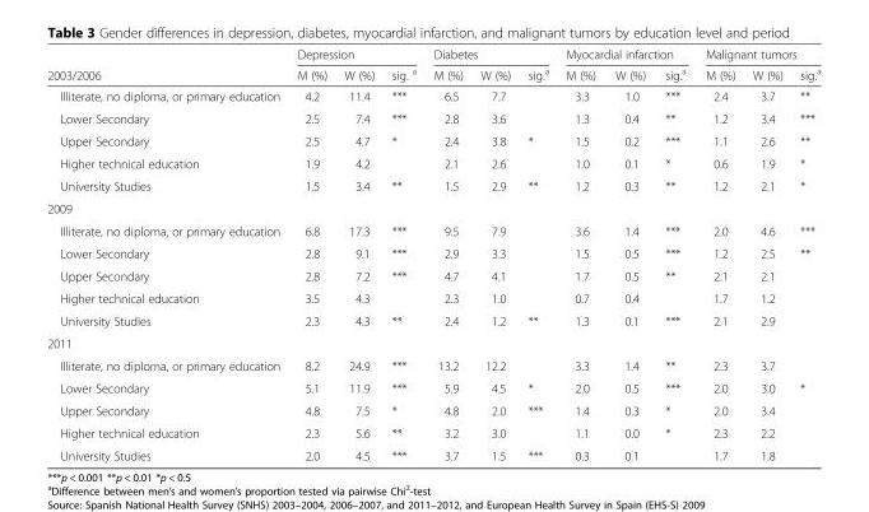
<table><thead><tr><td rowspan="2">2003/2006</td><td colspan="3">Depression</td><td colspan="3">Diabetes</td><td colspan="3">Myocardial infarction</td><td colspan="3">Malignant tumors</td></tr><tr><td>M (%)</td><td>W (%)</td><td>sig. <sup>a</sup></td><td>M (%)</td><td>W (%)</td><td>sig.<sup>a</sup></td><td>M (%)</td><td>W (%)</td><td>sig.<sup>a</sup></td><td>M (%)</td><td>W (%)</td><td>sig.<sup>a</sup></td></tr></thead><tbody><tr><td>Illiterate, no diploma, or primary education</td><td>4.2</td><td>11.4</td><td>***</td><td>6.5</td><td>7.7</td><td></td><td>3.3</td><td>1.0</td><td>***</td><td>2.4</td><td>3.7</td><td>**</td></tr><tr><td>Lower Secondary</td><td>2.5</td><td>7.4</td><td>***</td><td>2.8</td><td>3.6</td><td></td><td>1.3</td><td>0.4</td><td>**</td><td>1.2</td><td>3.4</td><td>***</td></tr><tr><td>Upper Secondary</td><td>2.5</td><td>4.7</td><td>*</td><td>2.4</td><td>3.8</td><td>*</td><td>1.5</td><td>0.2</td><td>***</td><td>1.1</td><td>2.6</td><td>**</td></tr><tr><td>Higher technical education</td><td>1.9</td><td>4.2</td><td></td><td>2.1</td><td>2.6</td><td></td><td>1.0</td><td>0.1</td><td>*</td><td>0.6</td><td>1.9</td><td>*</td></tr><tr><td>University Studies</td><td>1.5</td><td>3.4</td><td>**</td><td>1.5</td><td>2.9</td><td>**</td><td>1.2</td><td>0.3</td><td>**</td><td>1.2</td><td>2.1</td><td>*</td></tr><tr><td colspan="13">2009</td></tr><tr><td>Illiterate, no diploma, or primary education</td><td>6.8</td><td>17.3</td><td>***</td><td>9.5</td><td>7.9</td><td></td><td>3.6</td><td>1.4</td><td>***</td><td>2.0</td><td>4.6</td><td>***</td></tr><tr><td>Lower Secondary</td><td>2.8</td><td>9.1</td><td>***</td><td>2.9</td><td>3.3</td><td></td><td>1.5</td><td>0.5</td><td>***</td><td>1.2</td><td>2.5</td><td>**</td></tr><tr><td>Upper Secondary</td><td>2.8</td><td>7.2</td><td>***</td><td>4.7</td><td>4.1</td><td></td><td>1.7</td><td>0.5</td><td>**</td><td>2.1</td><td>2.1</td><td></td></tr><tr><td>Higher technical education</td><td>3.5</td><td>4.3</td><td></td><td>2.3</td><td>1.0</td><td></td><td>0.7</td><td>0.4</td><td></td><td>1.7</td><td>1.2</td><td></td></tr><tr><td>University Studies</td><td>2.3</td><td>4.3</td><td>**</td><td>2.4</td><td>1.2</td><td>**</td><td>1.3</td><td>0.1</td><td>***</td><td>2.1</td><td>2.9</td><td></td></tr><tr><td colspan="13">2011</td></tr><tr><td>Illiterate, no diploma, or primary education</td><td>8.2</td><td>24.9</td><td>***</td><td>13.2</td><td>12.2</td><td></td><td>3.3</td><td>1.4</td><td>**</td><td>2.3</td><td>3.7</td><td></td></tr><tr><td>Lower Secondary</td><td>5.1</td><td>11.9</td><td>***</td><td>5.9</td><td>4.5</td><td>*</td><td>2.0</td><td>0.5</td><td>***</td><td>2.0</td><td>3.0</td><td>*</td></tr><tr><td>Upper Secondary</td><td>4.8</td><td>7.5</td><td>*</td><td>4.8</td><td>2.0</td><td>***</td><td>1.4</td><td>0.3</td><td>*</td><td>2.0</td><td>3.4</td><td></td></tr><tr><td>Higher technical education</td><td>2.3</td><td>5.6</td><td>**</td><td>3.2</td><td>3.0</td><td></td><td>1.1</td><td>0.0</td><td>*</td><td>2.3</td><td>2.2</td><td></td></tr><tr><td>University Studies</td><td>2.0</td><td>4.5</td><td>***</td><td>3.7</td><td>1.5</td><td>***</td><td>0.3</td><td>0.1</td><td></td><td>1.7</td><td>1.8</td><td></td></tr></tbody></table>